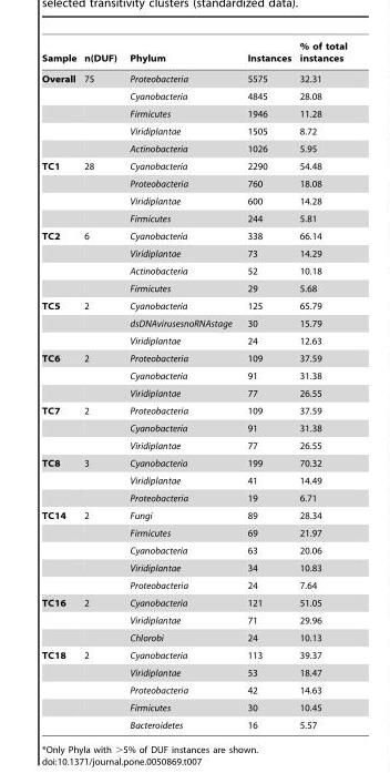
<table><thead><tr><td>Sample</td><td>n(DUF)</td><td>Phylum</td><td>Instances</td><td>% of total instances</td></tr></thead><tbody><tr><td rowspan="5">Overall</td><td>75</td><td>Proteobacteria</td><td>5575</td><td>32.31</td></tr><tr><td></td><td>Cyanobacteria</td><td>4845</td><td>28.08</td></tr><tr><td></td><td>Firmicutes</td><td>1946</td><td>11.28</td></tr><tr><td></td><td>Viridiplantae</td><td>1505</td><td>8.72</td></tr><tr><td></td><td>Actinobacteria</td><td>1026</td><td>5.95</td></tr><tr><td rowspan="4">TC1</td><td>28</td><td>Cyanobacteria</td><td>2290</td><td>54.48</td></tr><tr><td></td><td>Proteobacteria</td><td>760</td><td>18.08</td></tr><tr><td></td><td>Viridiplantae</td><td>600</td><td>14.28</td></tr><tr><td></td><td>Firmicutes</td><td>244</td><td>5.81</td></tr><tr><td rowspan="4">TC2</td><td>6</td><td>Cyanobacteria</td><td>338</td><td>66.14</td></tr><tr><td></td><td>Viridiplantae</td><td>73</td><td>14.29</td></tr><tr><td></td><td>Actinobacteria</td><td>52</td><td>10.18</td></tr><tr><td></td><td>Firmicutes</td><td>29</td><td>5.68</td></tr><tr><td rowspan="3">TC5</td><td>2</td><td>Cyanobacteria</td><td>125</td><td>65.79</td></tr><tr><td></td><td>dsDNAvirusesnoRNAstage</td><td>30</td><td>15.79</td></tr><tr><td></td><td>Viridiplantae</td><td>24</td><td>12.63</td></tr><tr><td rowspan="3">TC6</td><td>2</td><td>Proteobacteria</td><td>109</td><td>37.59</td></tr><tr><td></td><td>Cyanobacteria</td><td>91</td><td>31.38</td></tr><tr><td></td><td>Viridiplantae</td><td>77</td><td>26.55</td></tr><tr><td rowspan="3">TC7</td><td>2</td><td>Proteobacteria</td><td>109</td><td>37.59</td></tr><tr><td></td><td>Cyanobacteria</td><td>91</td><td>31.38</td></tr><tr><td></td><td>Viridiplantae</td><td>77</td><td>26.55</td></tr><tr><td rowspan="3">TC8</td><td>3</td><td>Cyanobacteria</td><td>199</td><td>70.32</td></tr><tr><td></td><td>Viridiplantae</td><td>41</td><td>14.49</td></tr><tr><td></td><td>Proteobacteria</td><td>19</td><td>6.71</td></tr><tr><td rowspan="5">TC14</td><td>2</td><td>Fungi</td><td>89</td><td>28.34</td></tr><tr><td></td><td>Firmicutes</td><td>69</td><td>21.97</td></tr><tr><td></td><td>Cyanobacteria</td><td>63</td><td>20.06</td></tr><tr><td></td><td>Viridiplantae</td><td>34</td><td>10.83</td></tr><tr><td></td><td>Proteobacteria</td><td>24</td><td>7.64</td></tr><tr><td rowspan="3">TC16</td><td>2</td><td>Cyanobacteria</td><td>121</td><td>51.05</td></tr><tr><td></td><td>Viridiplantae</td><td>71</td><td>29.96</td></tr><tr><td></td><td>Chlorobi</td><td>24</td><td>10.13</td></tr><tr><td rowspan="5">TC18</td><td>2</td><td>Cyanobacteria</td><td>113</td><td>39.37</td></tr><tr><td></td><td>Viridiplantae</td><td>53</td><td>18.47</td></tr><tr><td></td><td>Proteobacteria</td><td>42</td><td>14.63</td></tr><tr><td></td><td>Firmicutes</td><td>30</td><td>10.45</td></tr><tr><td></td><td>Bacteroidetes</td><td>16</td><td>5.57</td></tr></tbody></table>